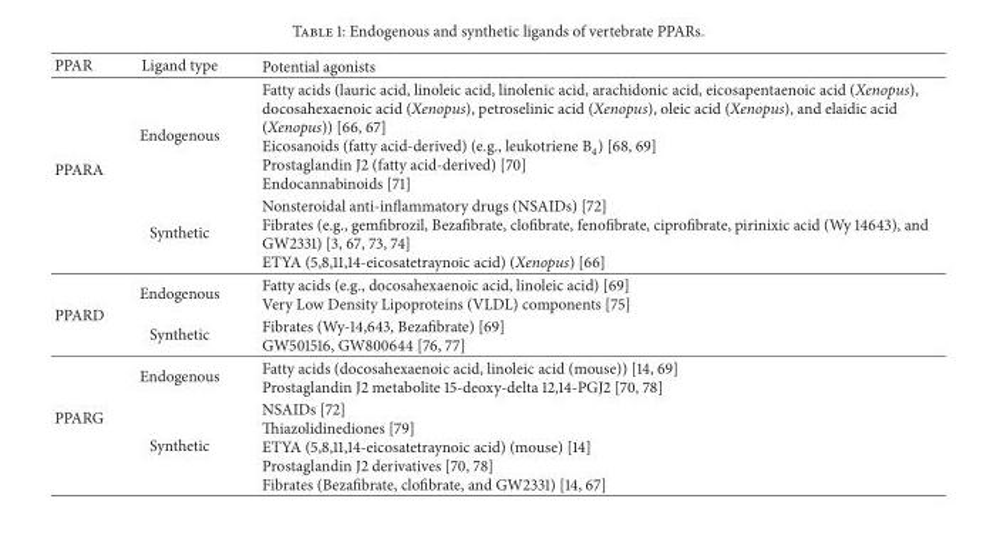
<table><thead><tr><td>PPAR</td><td>Ligand type</td><td>Potential agonists</td></tr></thead><tbody><tr><td rowspan="2">PPARA</td><td>Endogenous</td><td>Fatty acids (lauric acid, linoleic acid, linolenic acid, arachidonic acid, eicosapentaenoic acid (Xenopus), docosahexaenoic acid (Xenopus), petroselinic acid (Xenopus), oleic acid (Xenopus), and elaidic acid (Xenopus)) [66, 67] Eicosanoids (fatty acid-derived) (e.g., leukotriene B<sub>4</sub>) [68, 69] Prostaglandin J2 (fatty acid-derived) [70] Endocannabinoids [71]</td></tr><tr><td>Synthetic</td><td>Nonsteroidal anti-inflammatory drugs (NSAIDs) [72] Fibrates (e.g., gemfibrozil, Bezafibrate, clofibrate, fenofibrate, ciprofibrate, pirinixic acid (Wy 14643), and GW2331) [3, 67, 73, 74] ETYA (5,8,11,14-eicosatetraynoic acid) (Xenopus) [66]</td></tr><tr><td rowspan="2">PPARD</td><td>Endogenous</td><td>Fatty acids (e.g., docosahexaenoic acid, linoleic acid) [69] Very Low Density Lipoproteins (VLDL) components [75]</td></tr><tr><td>Synthetic</td><td>Fibrates (Wy-14,643, Bezafibrate) [69] GW501516, GW800644 [76, 77]</td></tr><tr><td rowspan="2">PPARG</td><td>Endogenous</td><td>Fatty acids (docosahexaenoic acid, linoleic acid (mouse)) [14, 69] Prostaglandin J2 metabolite 15-deoxy-delta 12,14-PGJ2 [70, 78]</td></tr><tr><td>Synthetic</td><td>NSAIDs [72] Thiazolidinediones [79] ETYA (5,8,11,14-eicosatetraynoic acid) (mouse) [14] Prostaglandin J2 derivatives [70, 78] Fibrates (Bezafibrate, clofibrate, and GW2331) [14, 67]</td></tr></tbody></table>